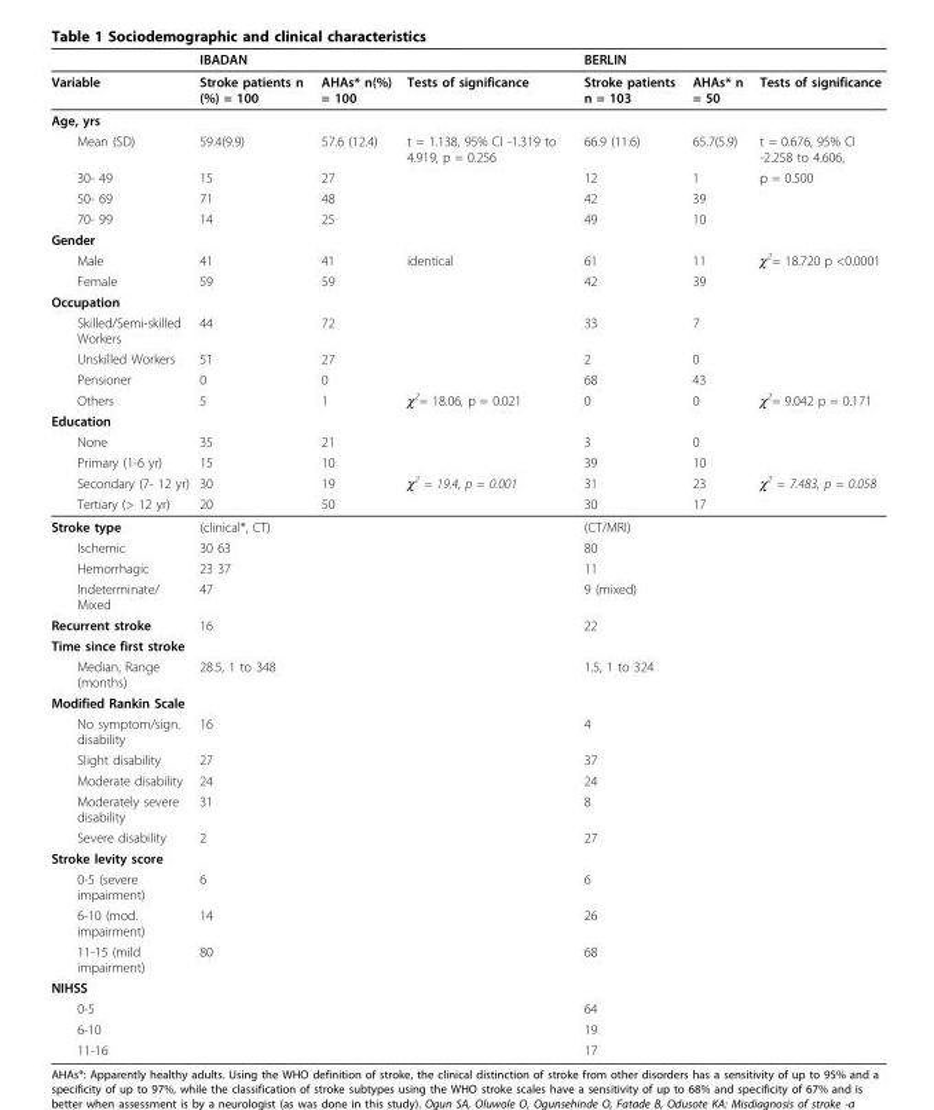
<table><thead><tr><td rowspan="2">Variable</td><td colspan="3">IBADAN</td><td colspan="3">BERLIN</td></tr><tr><td>Stroke patients n (%) = 100</td><td>AHAs* n(%) = 100</td><td>Tests of significance</td><td>Stroke patients n = 103</td><td>AHAs* n = 50</td><td>Tests of significance</td></tr></thead><tbody><tr><td colspan="7">Age, yrs</td></tr><tr><td>Mean (SD)</td><td>59.4(9.9)</td><td>57.6 (12.4)</td><td>t = 1.138, 95% CI -1.319 to 4.919, p = 0.256</td><td>66.9 (11.6)</td><td>65.7(5.9)</td><td>t = 0.676, 95% CI -2.258 to 4.606,</td></tr><tr><td>30- 49</td><td>15</td><td>27</td><td></td><td>12</td><td>1</td><td>p = 0.500</td></tr><tr><td>50- 69</td><td>71</td><td>48</td><td></td><td>42</td><td>39</td><td></td></tr><tr><td>70- 99</td><td>14</td><td>25</td><td></td><td>49</td><td>10</td><td></td></tr><tr><td colspan="7">Gender</td></tr><tr><td>Male</td><td>41</td><td>41</td><td>identical</td><td>61</td><td>11</td><td>χ<sup>2</sup>= 18.720 p &lt;0.0001</td></tr><tr><td>Female</td><td>59</td><td>59</td><td></td><td>42</td><td>39</td><td></td></tr><tr><td colspan="7">Occupation</td></tr><tr><td>Skilled/Semi-skilled Workers</td><td>44</td><td>72</td><td></td><td>33</td><td>7</td><td></td></tr><tr><td>Unskilled Workers</td><td>51</td><td>27</td><td></td><td>2</td><td>0</td><td></td></tr><tr><td>Pensioner</td><td>0</td><td>0</td><td></td><td>68</td><td>43</td><td></td></tr><tr><td>Others</td><td>5</td><td>1</td><td>χ<sup>2</sup>= 18.06, p = 0.021</td><td>0</td><td>0</td><td>χ<sup>2</sup>= 9.042 p = 0.171</td></tr><tr><td colspan="7">Education</td></tr><tr><td>None</td><td>35</td><td>21</td><td></td><td>3</td><td>0</td><td></td></tr><tr><td>Primary (1-6 yr)</td><td>15</td><td>10</td><td></td><td>39</td><td>10</td><td></td></tr><tr><td>Secondary (7- 12 yr)</td><td>30</td><td>19</td><td>χ<sup>2</sup> = 19.4, p = 0.001</td><td>31</td><td>23</td><td>χ<sup>2</sup> = 7.483, p = 0.058</td></tr><tr><td>Tertiary (&gt; 12 yr)</td><td>20</td><td>50</td><td></td><td>30</td><td>17</td><td></td></tr><tr><td>Stroke type</td><td colspan="3">(clinical*, CT)</td><td colspan="3">(CT/MRI)</td></tr><tr><td>Ischemic</td><td colspan="3">30 63</td><td colspan="3">80</td></tr><tr><td>Hemorrhagic</td><td colspan="3">23 37</td><td colspan="3">11</td></tr><tr><td>Indeterminate/ Mixed</td><td colspan="3">47</td><td colspan="3">9 (mixed)</td></tr><tr><td>Recurrent stroke</td><td colspan="3">16</td><td colspan="3">22</td></tr><tr><td colspan="7">Time since first stroke</td></tr><tr><td>Median, Range (months)</td><td colspan="3">28.5, 1 to 348</td><td colspan="3">1.5, 1 to 324</td></tr><tr><td colspan="7">Modified Rankin Scale</td></tr><tr><td>No symptom/sign. disability</td><td colspan="3">16</td><td colspan="3">4</td></tr><tr><td>Slight disability</td><td colspan="3">27</td><td colspan="3">37</td></tr><tr><td>Moderate disability</td><td colspan="3">24</td><td colspan="3">24</td></tr><tr><td>Moderately severe disability</td><td colspan="3">31</td><td colspan="3">8</td></tr><tr><td>Severe disability</td><td colspan="3">2</td><td colspan="3">27</td></tr><tr><td colspan="7">Stroke levity score</td></tr><tr><td>0-5 (severe impairment)</td><td colspan="3">6</td><td colspan="3">6</td></tr><tr><td>6-10 (mod. impairment)</td><td colspan="3">14</td><td colspan="3">26</td></tr><tr><td>11-15 (mild impairment)</td><td colspan="3">80</td><td colspan="3">68</td></tr><tr><td colspan="7">NIHSS</td></tr><tr><td>0-5</td><td></td><td></td><td></td><td colspan="3">64</td></tr><tr><td>6-10</td><td></td><td></td><td></td><td colspan="3">19</td></tr><tr><td>11-16</td><td></td><td></td><td></td><td colspan="3">17</td></tr></tbody></table>